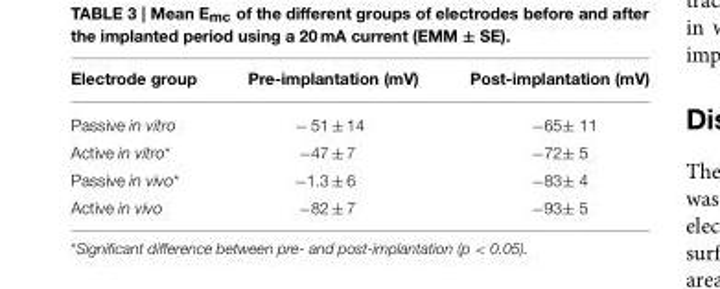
<table><thead><tr><td>Electrode group</td><td>Pre-implantation (mV)</td><td>Post-implantation (mV)</td></tr></thead><tbody><tr><td>Passive in vitro</td><td>− 51 ± 14</td><td>−65± 11</td></tr><tr><td>Active in vitro*</td><td>−47 ± 7</td><td>−72± 5</td></tr><tr><td>Passive in vivo*</td><td>−1.3 ± 6</td><td>−83± 4</td></tr><tr><td>Active in vivo</td><td>−82 ± 7</td><td>−93± 5</td></tr></tbody></table>